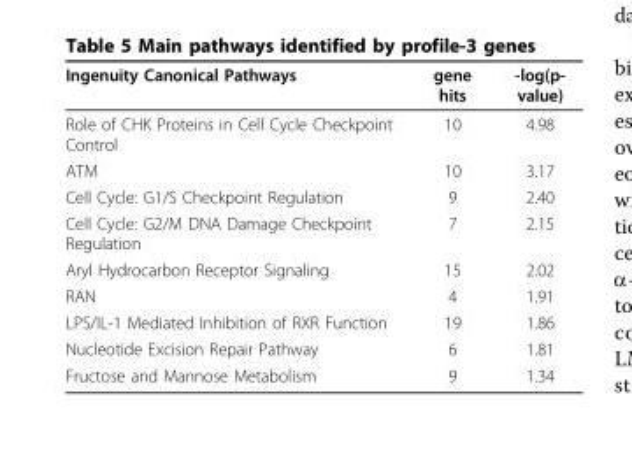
<table><thead><tr><td>Ingenuity Canonical Pathways</td><td>gene hits</td><td>-log(p- value)</td></tr></thead><tbody><tr><td>Role of CHK Proteins in Cell Cycle Checkpoint Control</td><td>10</td><td>4.98</td></tr><tr><td>ATM</td><td>10</td><td>3.17</td></tr><tr><td>Cell Cycle: G1/S Checkpoint Regulation</td><td>9</td><td>2.40</td></tr><tr><td>Cell Cycle: G2/M DNA Damage Checkpoint Regulation</td><td>7</td><td>2.15</td></tr><tr><td>Aryl Hydrocarbon Receptor Signaling</td><td>15</td><td>2.02</td></tr><tr><td>RAN</td><td>4</td><td>1.91</td></tr><tr><td>LPS/IL-1 Mediated Inhibition of RXR Function</td><td>19</td><td>1.86</td></tr><tr><td>Nucleotide Excision Repair Pathway</td><td>6</td><td>1.81</td></tr><tr><td>Fructose and Mannose Metabolism</td><td>9</td><td>1.34</td></tr></tbody></table>